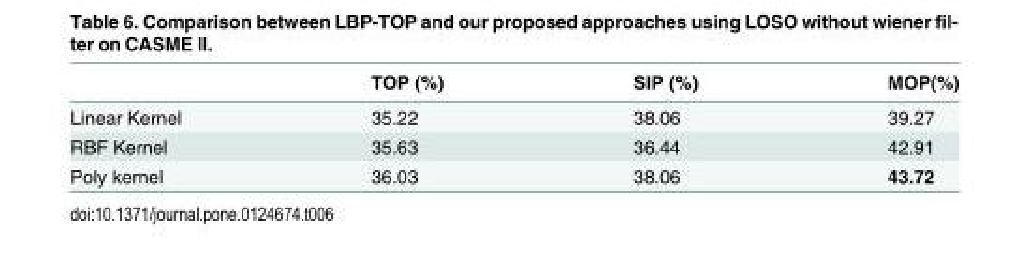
<table><thead><tr><td></td><td>TOP (%)</td><td>SIP (%)</td><td>MOP(%)</td></tr></thead><tbody><tr><td>Linear Kernel</td><td>35.22</td><td>38.06</td><td>39.27</td></tr><tr><td>RBF Kernel</td><td>35.63</td><td>36.44</td><td>42.91</td></tr><tr><td>Poly kernel</td><td>36.03</td><td>38.06</td><td>43.72</td></tr></tbody></table>